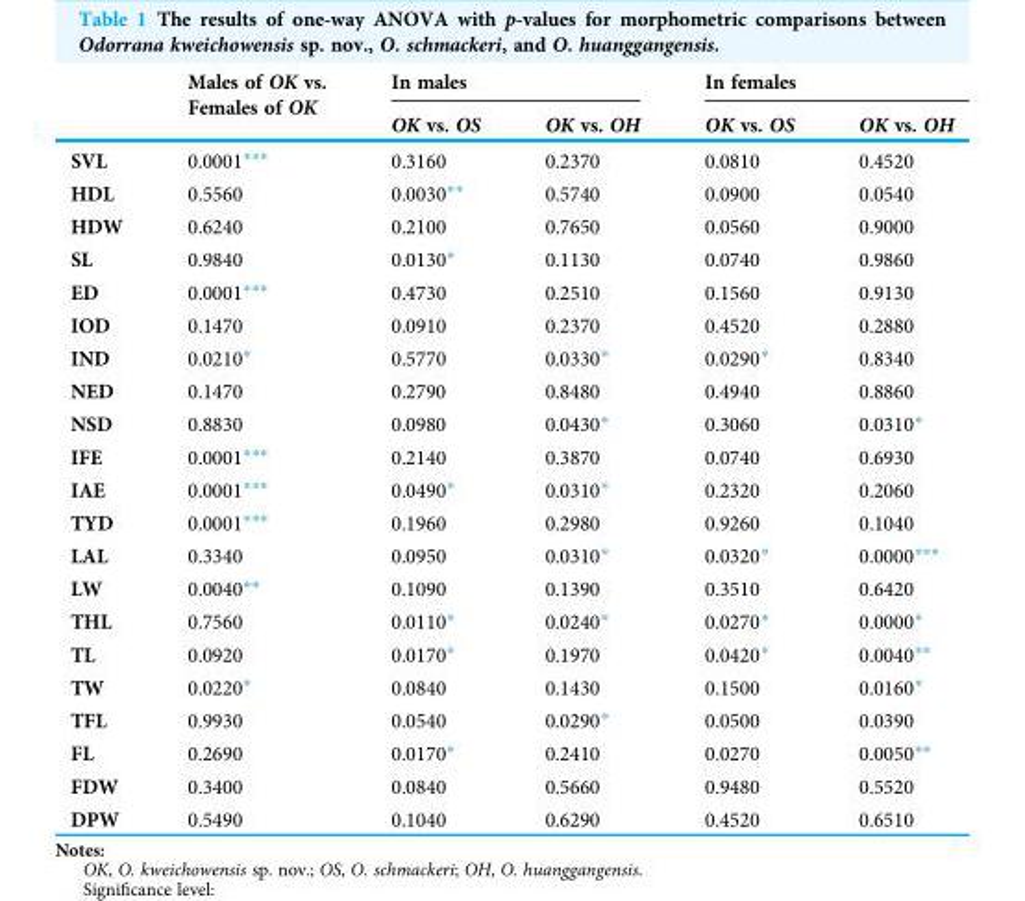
<table><thead><tr><td rowspan="2"></td><td rowspan="2">Males of OK vs. Females of OK</td><td colspan="2">In males</td><td colspan="2">In females</td></tr><tr><td>OK vs. OS</td><td>OK vs. OH</td><td>OK vs. OS</td><td>OK vs. OH</td></tr></thead><tbody><tr><td>SVL</td><td>0.0001***</td><td>0.3160</td><td>0.2370</td><td>0.0810</td><td>0.4520</td></tr><tr><td>HDL</td><td>0.5560</td><td>0.0030**</td><td>0.5740</td><td>0.0900</td><td>0.0540</td></tr><tr><td>HDW</td><td>0.6240</td><td>0.2100</td><td>0.7650</td><td>0.0560</td><td>0.9000</td></tr><tr><td>SL</td><td>0.9840</td><td>0.0130*</td><td>0.1130</td><td>0.0740</td><td>0.9860</td></tr><tr><td>ED</td><td>0.0001***</td><td>0.4730</td><td>0.2510</td><td>0.1560</td><td>0.9130</td></tr><tr><td>IOD</td><td>0.1470</td><td>0.0910</td><td>0.2370</td><td>0.4520</td><td>0.2880</td></tr><tr><td>IND</td><td>0.0210*</td><td>0.5770</td><td>0.0330*</td><td>0.0290*</td><td>0.8340</td></tr><tr><td>NED</td><td>0.1470</td><td>0.2790</td><td>0.8480</td><td>0.4940</td><td>0.8860</td></tr><tr><td>NSD</td><td>0.8830</td><td>0.0980</td><td>0.0430*</td><td>0.3060</td><td>0.0310*</td></tr><tr><td>IFE</td><td>0.0001***</td><td>0.2140</td><td>0.3870</td><td>0.0740</td><td>0.6930</td></tr><tr><td>IAE</td><td>0.0001***</td><td>0.0490*</td><td>0.0310*</td><td>0.2320</td><td>0.2060</td></tr><tr><td>TYD</td><td>0.0001***</td><td>0.1960</td><td>0.2980</td><td>0.9260</td><td>0.1040</td></tr><tr><td>LAL</td><td>0.3340</td><td>0.0950</td><td>0.0310*</td><td>0.0320*</td><td>0.0000***</td></tr><tr><td>LW</td><td>0.0040**</td><td>0.1090</td><td>0.1390</td><td>0.3510</td><td>0.6420</td></tr><tr><td>THL</td><td>0.7560</td><td>0.0110*</td><td>0.0240*</td><td>0.0270*</td><td>0.0000*</td></tr><tr><td>TL</td><td>0.0920</td><td>0.0170*</td><td>0.1970</td><td>0.0420*</td><td>0.0040**</td></tr><tr><td>TW</td><td>0.0220*</td><td>0.0840</td><td>0.1430</td><td>0.1500</td><td>0.0160*</td></tr><tr><td>TFL</td><td>0.9930</td><td>0.0540</td><td>0.0290*</td><td>0.0500</td><td>0.0390</td></tr><tr><td>FL</td><td>0.2690</td><td>0.0170*</td><td>0.2410</td><td>0.0270</td><td>0.0050**</td></tr><tr><td>FDW</td><td>0.3400</td><td>0.0840</td><td>0.5660</td><td>0.9480</td><td>0.5520</td></tr><tr><td>DPW</td><td>0.5490</td><td>0.1040</td><td>0.6290</td><td>0.4520</td><td>0.6510</td></tr></tbody></table>